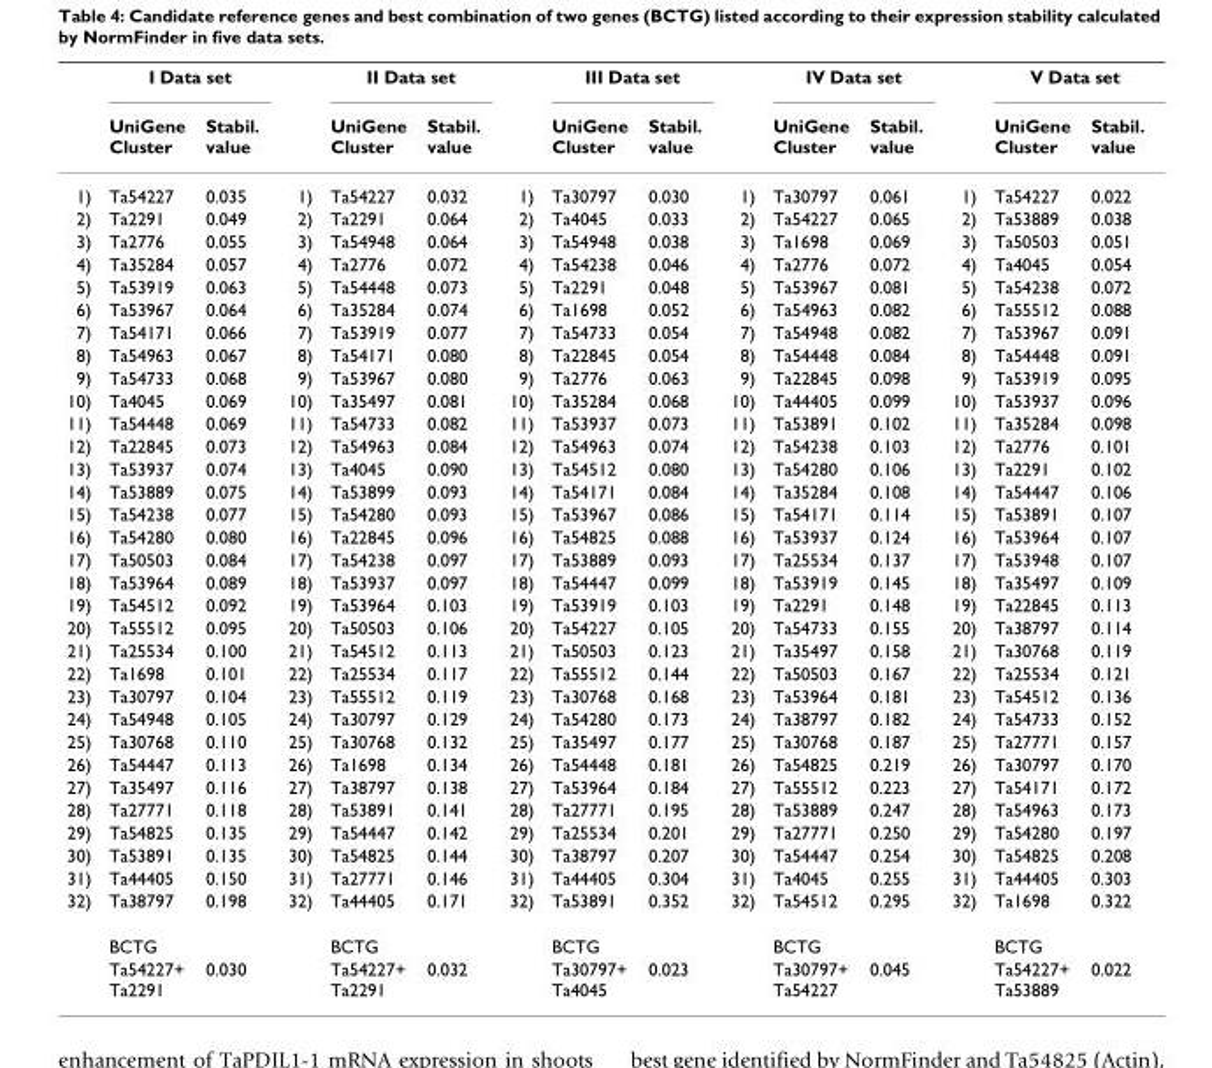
<table><thead><tr><td rowspan="2"></td><td colspan="2">I Data set</td><td rowspan="2"></td><td colspan="2">II Data set</td><td rowspan="2"></td><td colspan="2">III Data set</td><td rowspan="2"></td><td colspan="2">IV Data set</td><td rowspan="2"></td><td colspan="2">V Data set</td></tr><tr><td>UniGene Cluster</td><td>Stabil. value</td><td>UniGene Cluster</td><td>Stabil. value</td><td>UniGene Cluster</td><td>Stabil. value</td><td>UniGene Cluster</td><td>Stabil. value</td><td>UniGene Cluster</td><td>Stabil. value</td></tr></thead><tbody><tr><td>1)</td><td>Ta54227</td><td>0.035</td><td>1)</td><td>Ta54227</td><td>0.032</td><td>1)</td><td>Ta30797</td><td>0.030</td><td>1)</td><td>Ta30797</td><td>0.061</td><td>1)</td><td>Ta54227</td><td>0.022</td></tr><tr><td>2)</td><td>Ta2291</td><td>0.049</td><td>2)</td><td>Ta2291</td><td>0.064</td><td>2)</td><td>Ta4045</td><td>0.033</td><td>2)</td><td>Ta54227</td><td>0.065</td><td>2)</td><td>Ta53889</td><td>0.038</td></tr><tr><td>3)</td><td>Ta2776</td><td>0.055</td><td>3)</td><td>Ta54948</td><td>0.064</td><td>3)</td><td>Ta54948</td><td>0.038</td><td>3)</td><td>Ta1698</td><td>0.069</td><td>3)</td><td>Ta50503</td><td>0.051</td></tr><tr><td>4)</td><td>Ta35284</td><td>0.057</td><td>4)</td><td>Ta2776</td><td>0.072</td><td>4)</td><td>Ta54238</td><td>0.046</td><td>4)</td><td>Ta2776</td><td>0.072</td><td>4)</td><td>Ta4045</td><td>0.054</td></tr><tr><td>5)</td><td>Ta53919</td><td>0.063</td><td>5)</td><td>Ta54448</td><td>0.073</td><td>5)</td><td>Ta2291</td><td>0.048</td><td>5)</td><td>Ta53967</td><td>0.081</td><td>5)</td><td>Ta54238</td><td>0.072</td></tr><tr><td>6)</td><td>Ta53967</td><td>0.064</td><td>6)</td><td>Ta35284</td><td>0.074</td><td>6)</td><td>Ta1698</td><td>0.052</td><td>6)</td><td>Ta54963</td><td>0.082</td><td>6)</td><td>Ta55512</td><td>0.088</td></tr><tr><td>7)</td><td>Ta54171</td><td>0.066</td><td>7)</td><td>Ta53919</td><td>0.077</td><td>7)</td><td>Ta54733</td><td>0.054</td><td>7)</td><td>Ta54948</td><td>0.082</td><td>7)</td><td>Ta53967</td><td>0.091</td></tr><tr><td>8)</td><td>Ta54963</td><td>0.067</td><td>8)</td><td>Ta54171</td><td>0.080</td><td>8)</td><td>Ta22845</td><td>0.054</td><td>8)</td><td>Ta54448</td><td>0.084</td><td>8)</td><td>Ta54448</td><td>0.091</td></tr><tr><td>9)</td><td>Ta54733</td><td>0.068</td><td>9)</td><td>Ta53967</td><td>0.080</td><td>9)</td><td>Ta2776</td><td>0.063</td><td>9)</td><td>Ta22845</td><td>0.098</td><td>9)</td><td>Ta53919</td><td>0.095</td></tr><tr><td>10)</td><td>Ta4045</td><td>0.069</td><td>10)</td><td>Ta35497</td><td>0.081</td><td>10)</td><td>Ta35284</td><td>0.068</td><td>10)</td><td>Ta44405</td><td>0.099</td><td>10)</td><td>Ta53937</td><td>0.096</td></tr><tr><td>11)</td><td>Ta54448</td><td>0.069</td><td>11)</td><td>Ta54733</td><td>0.082</td><td>11)</td><td>Ta53937</td><td>0.073</td><td>11)</td><td>Ta53891</td><td>0.102</td><td>11)</td><td>Ta35284</td><td>0.098</td></tr><tr><td>12)</td><td>Ta22845</td><td>0.073</td><td>12)</td><td>Ta54963</td><td>0.084</td><td>12)</td><td>Ta54963</td><td>0.074</td><td>12)</td><td>Ta54238</td><td>0.103</td><td>12)</td><td>Ta2776</td><td>0.101</td></tr><tr><td>13)</td><td>Ta53937</td><td>0.074</td><td>13)</td><td>Ta4045</td><td>0.090</td><td>13)</td><td>Ta54512</td><td>0.080</td><td>13)</td><td>Ta54280</td><td>0.106</td><td>13)</td><td>Ta2291</td><td>0.102</td></tr><tr><td>14)</td><td>Ta53889</td><td>0.075</td><td>14)</td><td>Ta53899</td><td>0.093</td><td>14)</td><td>Ta54171</td><td>0.084</td><td>14)</td><td>Ta35284</td><td>0.108</td><td>14)</td><td>Ta54447</td><td>0.106</td></tr><tr><td>15)</td><td>Ta54238</td><td>0.077</td><td>15)</td><td>Ta54280</td><td>0.093</td><td>15)</td><td>Ta53967</td><td>0.086</td><td>15)</td><td>Ta54171</td><td>0.114</td><td>15)</td><td>Ta53891</td><td>0.107</td></tr><tr><td>16)</td><td>Ta54280</td><td>0.080</td><td>16)</td><td>Ta22845</td><td>0.096</td><td>16)</td><td>Ta54825</td><td>0.088</td><td>16)</td><td>Ta53937</td><td>0.124</td><td>16)</td><td>Ta53964</td><td>0.107</td></tr><tr><td>17)</td><td>Ta50503</td><td>0.084</td><td>17)</td><td>Ta54238</td><td>0.097</td><td>17)</td><td>Ta53889</td><td>0.093</td><td>17)</td><td>Ta25534</td><td>0.137</td><td>17)</td><td>Ta53948</td><td>0.107</td></tr><tr><td>18)</td><td>Ta53964</td><td>0.089</td><td>18)</td><td>Ta53937</td><td>0.097</td><td>18)</td><td>Ta54447</td><td>0.099</td><td>18)</td><td>Ta53919</td><td>0.145</td><td>18)</td><td>Ta35497</td><td>0.109</td></tr><tr><td>19)</td><td>Ta54512</td><td>0.092</td><td>19)</td><td>Ta53964</td><td>0.103</td><td>19)</td><td>Ta53919</td><td>0.103</td><td>19)</td><td>Ta2291</td><td>0.148</td><td>19)</td><td>Ta22845</td><td>0.113</td></tr><tr><td>20)</td><td>Ta55512</td><td>0.095</td><td>20)</td><td>Ta50503</td><td>0.106</td><td>20)</td><td>Ta54227</td><td>0.105</td><td>20)</td><td>Ta54733</td><td>0.155</td><td>20)</td><td>Ta38797</td><td>0.114</td></tr><tr><td>21)</td><td>Ta25534</td><td>0.100</td><td>21)</td><td>Ta54512</td><td>0.113</td><td>21)</td><td>Ta50503</td><td>0.123</td><td>21)</td><td>Ta35497</td><td>0.158</td><td>21)</td><td>Ta30768</td><td>0.119</td></tr><tr><td>22)</td><td>Ta1698</td><td>0.101</td><td>22)</td><td>Ta25534</td><td>0.117</td><td>22)</td><td>Ta55512</td><td>0.144</td><td>22)</td><td>Ta50503</td><td>0.167</td><td>22)</td><td>Ta25534</td><td>0.121</td></tr><tr><td>23)</td><td>Ta30797</td><td>0.104</td><td>23)</td><td>Ta55512</td><td>0.119</td><td>23)</td><td>Ta30768</td><td>0.168</td><td>23)</td><td>Ta53964</td><td>0.181</td><td>23)</td><td>Ta54512</td><td>0.136</td></tr><tr><td>24)</td><td>Ta54948</td><td>0.105</td><td>24)</td><td>Ta30797</td><td>0.129</td><td>24)</td><td>Ta54280</td><td>0.173</td><td>24)</td><td>Ta38797</td><td>0.182</td><td>24)</td><td>Ta54733</td><td>0.152</td></tr><tr><td>25)</td><td>Ta30768</td><td>0.110</td><td>25)</td><td>Ta30768</td><td>0.132</td><td>25)</td><td>Ta35497</td><td>0.177</td><td>25)</td><td>Ta30768</td><td>0.187</td><td>25)</td><td>Ta27771</td><td>0.157</td></tr><tr><td>26)</td><td>Ta54447</td><td>0.113</td><td>26)</td><td>Ta1698</td><td>0.134</td><td>26)</td><td>Ta54448</td><td>0.181</td><td>26)</td><td>Ta54825</td><td>0.219</td><td>26)</td><td>Ta30797</td><td>0.170</td></tr><tr><td>27)</td><td>Ta35497</td><td>0.116</td><td>27)</td><td>Ta38797</td><td>0.138</td><td>27)</td><td>Ta53964</td><td>0.184</td><td>27)</td><td>Ta55512</td><td>0.223</td><td>27)</td><td>Ta54171</td><td>0.172</td></tr><tr><td>28)</td><td>Ta27771</td><td>0.118</td><td>28)</td><td>Ta53891</td><td>0.141</td><td>28)</td><td>Ta27771</td><td>0.195</td><td>28)</td><td>Ta53889</td><td>0.247</td><td>28)</td><td>Ta54963</td><td>0.173</td></tr><tr><td>29)</td><td>Ta54825</td><td>0.135</td><td>29)</td><td>Ta54447</td><td>0.142</td><td>29)</td><td>Ta25534</td><td>0.201</td><td>29)</td><td>Ta27771</td><td>0.250</td><td>29)</td><td>Ta54280</td><td>0.197</td></tr><tr><td>30)</td><td>Ta53891</td><td>0.135</td><td>30)</td><td>Ta54825</td><td>0.144</td><td>30)</td><td>Ta38797</td><td>0.207</td><td>30)</td><td>Ta54447</td><td>0.254</td><td>30)</td><td>Ta54825</td><td>0.208</td></tr><tr><td>31)</td><td>Ta44405</td><td>0.150</td><td>31)</td><td>Ta27771</td><td>0.146</td><td>31)</td><td>Ta44405</td><td>0.304</td><td>31)</td><td>Ta4045</td><td>0.255</td><td>31)</td><td>Ta44405</td><td>0.303</td></tr><tr><td rowspan="3">32)</td><td>Ta38797</td><td>0.198</td><td>32)</td><td>Ta44405</td><td>0.171</td><td>32)</td><td>Ta53891</td><td>0.352</td><td>32)</td><td>Ta54512</td><td>0.295</td><td>32)</td><td>Ta1698</td><td>0.322</td></tr><tr><td>BCTG</td><td></td><td></td><td>BCTG</td><td></td><td></td><td>BCTG</td><td></td><td></td><td>BCTG</td><td></td><td></td><td>BCTG</td><td></td></tr><tr><td>Ta54227+ Ta2291</td><td>0.030</td><td></td><td>Ta54227+ Ta2291</td><td>0.032</td><td></td><td>Ta30797+ Ta4045</td><td>0.023</td><td></td><td>Ta30797+ Ta54227</td><td>0.045</td><td></td><td>Ta54227+ Ta53889</td><td>0.022</td></tr></tbody></table>